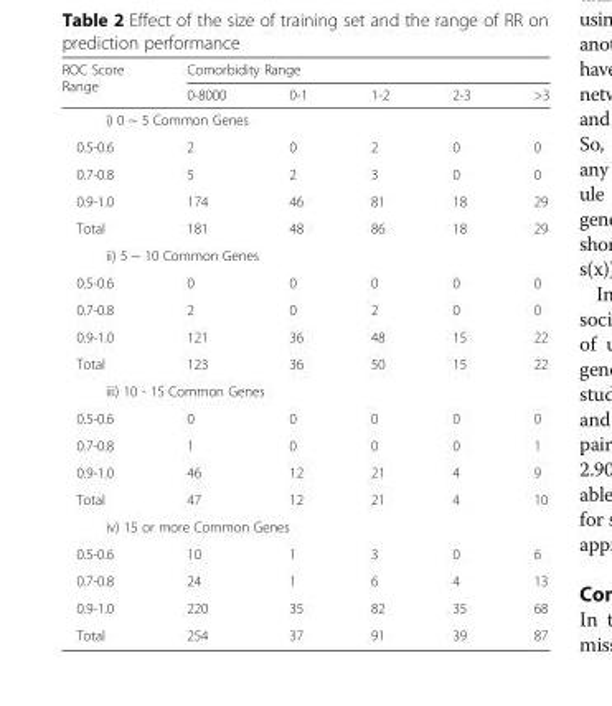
<table><thead><tr><td rowspan="2">ROC Score Range</td><td colspan="5">Comorbidity Range</td></tr><tr><td>0-8000</td><td>0-1</td><td>1-2</td><td>2-3</td><td>&gt;3</td></tr></thead><tbody><tr><td colspan="6">i) 0 ~ 5 Common Genes</td></tr><tr><td>0.5-0.6</td><td>2</td><td>0</td><td>2</td><td>0</td><td>0</td></tr><tr><td>0.7-0.8</td><td>5</td><td>2</td><td>3</td><td>0</td><td>0</td></tr><tr><td>0.9-1.0</td><td>174</td><td>46</td><td>81</td><td>18</td><td>29</td></tr><tr><td>Total</td><td>181</td><td>48</td><td>86</td><td>18</td><td>29</td></tr><tr><td colspan="6">ii) 5 ~ 10 Common Genes</td></tr><tr><td>0.5-0.6</td><td>0</td><td>0</td><td>0</td><td>0</td><td>0</td></tr><tr><td>0.7-0.8</td><td>2</td><td>0</td><td>2</td><td>0</td><td>0</td></tr><tr><td>0.9-1.0</td><td>121</td><td>36</td><td>48</td><td>15</td><td>22</td></tr><tr><td>Total</td><td>123</td><td>36</td><td>50</td><td>15</td><td>22</td></tr><tr><td colspan="6">iii) 10 - 15 Common Genes</td></tr><tr><td>0.5-0.6</td><td>0</td><td>0</td><td>0</td><td>0</td><td>0</td></tr><tr><td>0.7-0.8</td><td>1</td><td>0</td><td>0</td><td>0</td><td>1</td></tr><tr><td>0.9-1.0</td><td>46</td><td>12</td><td>21</td><td>4</td><td>9</td></tr><tr><td>Total</td><td>47</td><td>12</td><td>21</td><td>4</td><td>10</td></tr><tr><td colspan="6">iv) 15 or more Common Genes</td></tr><tr><td>0.5-0.6</td><td>10</td><td>1</td><td>3</td><td>0</td><td>6</td></tr><tr><td>0.7-0.8</td><td>24</td><td>1</td><td>6</td><td>4</td><td>13</td></tr><tr><td>0.9-1.0</td><td>220</td><td>35</td><td>82</td><td>35</td><td>68</td></tr><tr><td>Total</td><td>254</td><td>37</td><td>91</td><td>39</td><td>87</td></tr></tbody></table>